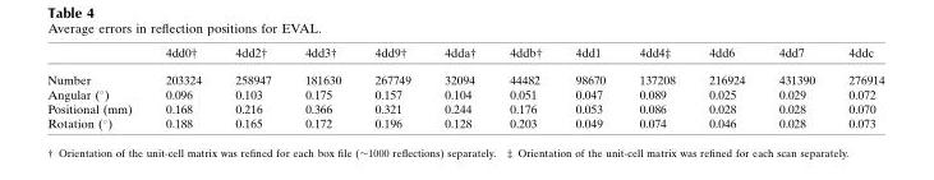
<table><thead><tr><td></td><td>4dd0†</td><td>4dd2†</td><td>4dd3†</td><td>4dd9†</td><td>4dda†</td><td>4ddb†</td><td>4dd1</td><td>4dd4‡</td><td>4dd6</td><td>4dd7</td><td>4ddc</td></tr></thead><tbody><tr><td>Number</td><td>203324</td><td>258947</td><td>181630</td><td>267749</td><td>32094</td><td>44482</td><td>98670</td><td>137208</td><td>216924</td><td>431390</td><td>276914</td></tr><tr><td>Angular (�)</td><td>0.096</td><td>0.103</td><td>0.175</td><td>0.157</td><td>0.104</td><td>0.051</td><td>0.047</td><td>0.089</td><td>0.025</td><td>0.029</td><td>0.072</td></tr><tr><td>Positional (mm)</td><td>0.168</td><td>0.216</td><td>0.366</td><td>0.321</td><td>0.244</td><td>0.176</td><td>0.053</td><td>0.086</td><td>0.028</td><td>0.028</td><td>0.070</td></tr><tr><td>Rotation (�)</td><td>0.188</td><td>0.165</td><td>0.172</td><td>0.196</td><td>0.128</td><td>0.203</td><td>0.049</td><td>0.074</td><td>0.046</td><td>0.028</td><td>0.073</td></tr></tbody></table>